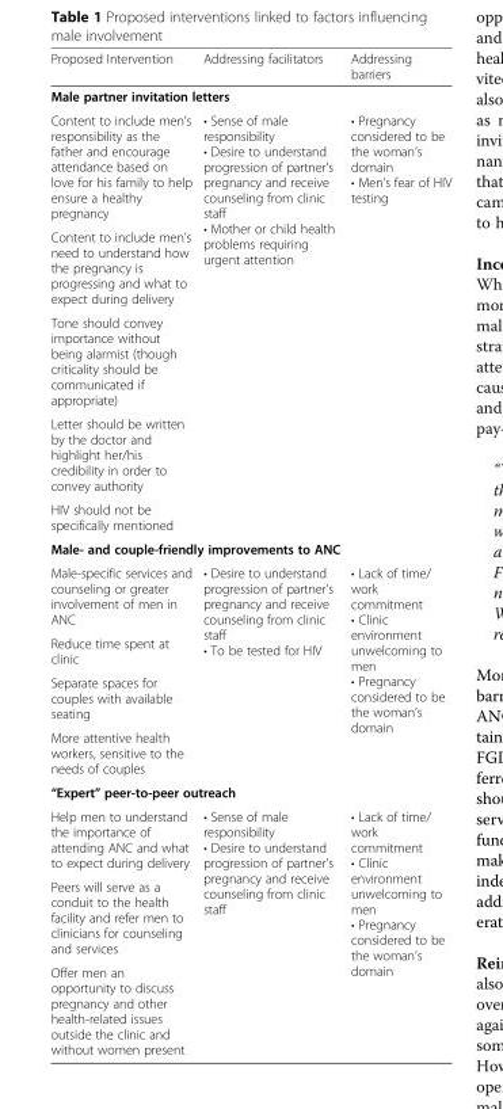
<table><thead><tr><td>Proposed Intervention</td><td>Addressing facilitators</td><td>Addressing barriers</td></tr></thead><tbody><tr><td colspan="3">Male partner invitation letters</td></tr><tr><td>Content to include men’s responsibility as the father and encourage attendance based on love for his family to help ensure a healthy pregnancy</td><td rowspan="5">• Sense of male responsibility • Desire to understand progression of partner’s pregnancy and receive counseling from clinic staff • Mother or child health problems requiring urgent attention</td><td rowspan="5">• Pregnancy considered to be the woman’s domain • Men’s fear of HIV testing</td></tr><tr><td>Content to include men’s need to understand how the pregnancy is progressing and what to expect during delivery</td></tr><tr><td>Tone should convey importance without being alarmist (though criticality should be communicated if appropriate)</td></tr><tr><td>Letter should be written by the doctor and highlight her/his credibility in order to convey authority</td></tr><tr><td>HIV should not be specifically mentioned</td></tr><tr><td colspan="3">Male- and couple-friendly improvements to ANC</td></tr><tr><td>Male-specific services and counseling or greater involvement of men in ANC</td><td rowspan="4">• Desire to understand progression of partner’s pregnancy and receive counseling from clinic staff • To be tested for HIV</td><td rowspan="4">• Lack of time/ work commitment • Clinic environment unwelcoming to men • Pregnancy considered to be the woman’s domain</td></tr><tr><td>Reduce time spent at clinic</td></tr><tr><td>Separate spaces for couples with available seating</td></tr><tr><td>More attentive health workers, sensitive to the needs of couples</td></tr><tr><td colspan="3">“Expert” peer-to-peer outreach</td></tr><tr><td>Help men to understand the importance of attending ANC and what to expect during delivery</td><td rowspan="3">• Sense of male responsibility • Desire to understand progression of partner’s pregnancy and receive counseling from clinic staff</td><td rowspan="3">• Lack of time/ work commitment • Clinic environment unwelcoming to men • Pregnancy considered to be the woman’s domain</td></tr><tr><td>Peers will serve as a conduit to the health facility and refer men to clinicians for counseling and services</td></tr><tr><td>Offer men an opportunity to discuss pregnancy and other health-related issues outside the clinic and without women present</td></tr></tbody></table>